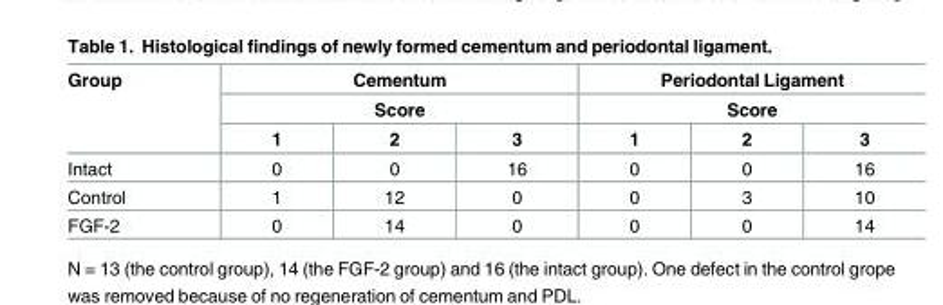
<table><thead><tr><td rowspan="3">Group</td><td rowspan="2" colspan="3">Cementum Score</td><td rowspan="2" colspan="3">Periodontal Ligament Score</td></tr><tr></tr><tr><td>1</td><td>2</td><td>3</td><td>1</td><td>2</td><td>3</td></tr></thead><tbody><tr><td>Intact</td><td>0</td><td>0</td><td>16</td><td>0</td><td>0</td><td>16</td></tr><tr><td>Control</td><td>1</td><td>12</td><td>0</td><td>0</td><td>3</td><td>10</td></tr><tr><td>FGF-2</td><td>0</td><td>14</td><td>0</td><td>0</td><td>0</td><td>14</td></tr></tbody></table>